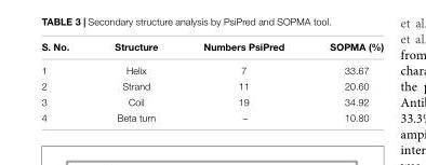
<table><thead><tr><td>S. No.</td><td>Structure</td><td>Numbers PsiPred</td><td>SOPMA (%)</td></tr></thead><tbody><tr><td>1</td><td>Helix</td><td>7</td><td>33.67</td></tr><tr><td>2</td><td>Strand</td><td>11</td><td>20.60</td></tr><tr><td>3</td><td>Coil</td><td>19</td><td>34.92</td></tr><tr><td>4</td><td>Beta turn</td><td>–</td><td>10.80</td></tr></tbody></table>